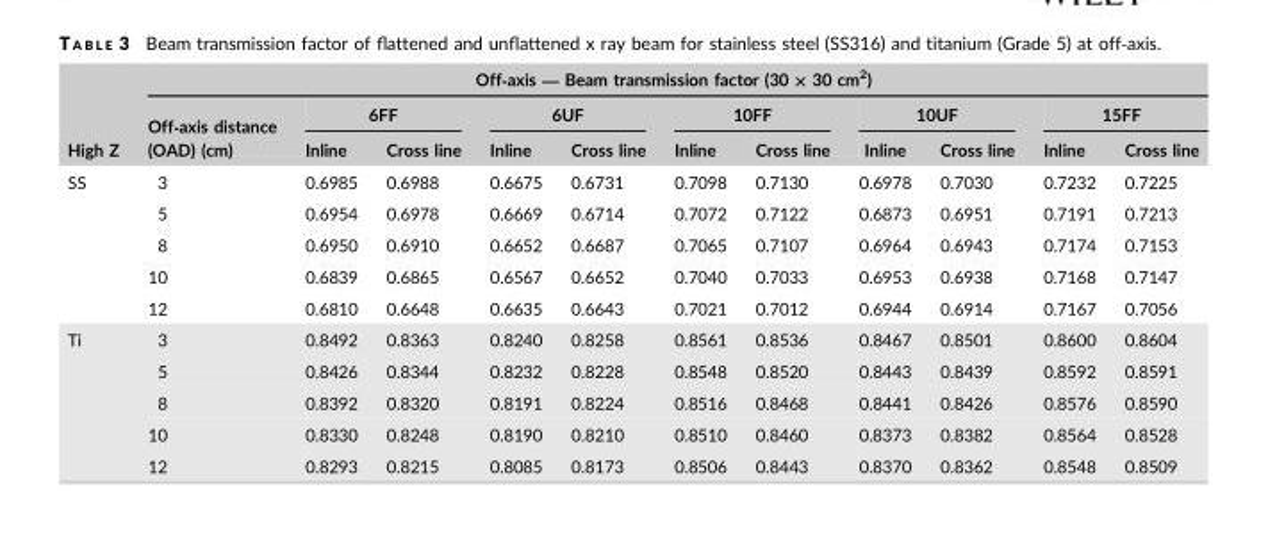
<table><thead><tr><td rowspan="3">High Z</td><td colspan="11">Off‐axis — Beam transmission factor (30 × 30 cm<sup>2</sup>)</td></tr><tr><td rowspan="2">Off‐axis distance (OAD) (cm)</td><td colspan="2">6FF</td><td colspan="2">6UF</td><td colspan="2">10FF</td><td colspan="2">10UF</td><td colspan="2">15FF</td></tr><tr><td>Inline</td><td>Cross line</td><td>Inline</td><td>Cross line</td><td>Inline</td><td>Cross line</td><td>Inline</td><td>Cross line</td><td>Inline</td><td>Cross line</td></tr></thead><tbody><tr><td rowspan="5">SS</td><td>3</td><td>0.6985</td><td>0.6988</td><td>0.6675</td><td>0.6731</td><td>0.7098</td><td>0.7130</td><td>0.6978</td><td>0.7030</td><td>0.7232</td><td>0.7225</td></tr><tr><td>5</td><td>0.6954</td><td>0.6978</td><td>0.6669</td><td>0.6714</td><td>0.7072</td><td>0.7122</td><td>0.6873</td><td>0.6951</td><td>0.7191</td><td>0.7213</td></tr><tr><td>8</td><td>0.6950</td><td>0.6910</td><td>0.6652</td><td>0.6687</td><td>0.7065</td><td>0.7107</td><td>0.6964</td><td>0.6943</td><td>0.7174</td><td>0.7153</td></tr><tr><td>10</td><td>0.6839</td><td>0.6865</td><td>0.6567</td><td>0.6652</td><td>0.7040</td><td>0.7033</td><td>0.6953</td><td>0.6938</td><td>0.7168</td><td>0.7147</td></tr><tr><td>12</td><td>0.6810</td><td>0.6648</td><td>0.6635</td><td>0.6643</td><td>0.7021</td><td>0.7012</td><td>0.6944</td><td>0.6914</td><td>0.7167</td><td>0.7056</td></tr><tr><td rowspan="5">Ti</td><td>3</td><td>0.8492</td><td>0.8363</td><td>0.8240</td><td>0.8258</td><td>0.8561</td><td>0.8536</td><td>0.8467</td><td>0.8501</td><td>0.8600</td><td>0.8604</td></tr><tr><td>5</td><td>0.8426</td><td>0.8344</td><td>0.8232</td><td>0.8228</td><td>0.8548</td><td>0.8520</td><td>0.8443</td><td>0.8439</td><td>0.8592</td><td>0.8591</td></tr><tr><td>8</td><td>0.8392</td><td>0.8320</td><td>0.8191</td><td>0.8224</td><td>0.8516</td><td>0.8468</td><td>0.8441</td><td>0.8426</td><td>0.8576</td><td>0.8590</td></tr><tr><td>10</td><td>0.8330</td><td>0.8248</td><td>0.8190</td><td>0.8210</td><td>0.8510</td><td>0.8460</td><td>0.8373</td><td>0.8382</td><td>0.8564</td><td>0.8528</td></tr><tr><td>12</td><td>0.8293</td><td>0.8215</td><td>0.8085</td><td>0.8173</td><td>0.8506</td><td>0.8443</td><td>0.8370</td><td>0.8362</td><td>0.8548</td><td>0.8509</td></tr></tbody></table>